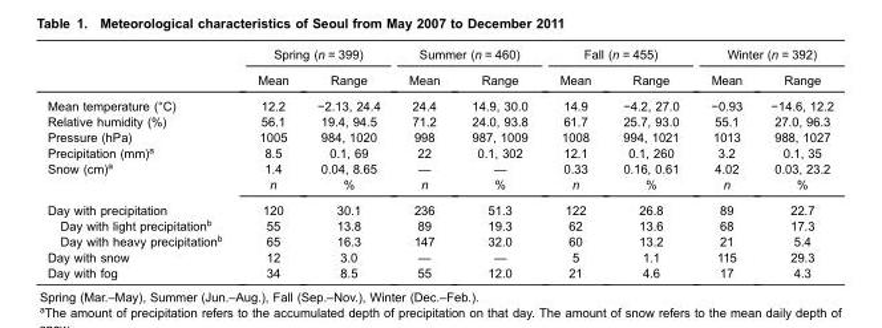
<table><thead><tr><td rowspan="2"></td><td colspan="2">Spring (n = 399)</td><td colspan="2">Summer (n = 460)</td><td colspan="2">Fall (n = 455)</td><td colspan="2">Winter (n = 392)</td></tr><tr><td>Mean</td><td>Range</td><td>Mean</td><td>Range</td><td>Mean</td><td>Range</td><td>Mean</td><td>Range</td></tr></thead><tbody><tr><td>Mean temperature (°C)</td><td>12.2</td><td>−2.13, 24.4</td><td>24.4</td><td>14.9, 30.0</td><td>14.9</td><td>−4.2, 27.0</td><td>−0.93</td><td>−14.6, 12.2</td></tr><tr><td>Relative humidity (%)</td><td>56.1</td><td>19.4, 94.5</td><td>71.2</td><td>24.0, 93.8</td><td>61.7</td><td>25.7, 93.0</td><td>55.1</td><td>27.0, 96.3</td></tr><tr><td>Pressure (hPa)</td><td>1005</td><td>984, 1020</td><td>998</td><td>987, 1009</td><td>1008</td><td>994, 1021</td><td>1013</td><td>988, 1027</td></tr><tr><td>Precipitation (mm)<sup>a</sup></td><td>8.5</td><td>0.1, 69</td><td>22</td><td>0.1, 302</td><td>12.1</td><td>0.1, 260</td><td>3.2</td><td>0.1, 35</td></tr><tr><td rowspan="2">Snow (cm)<sup>a</sup></td><td>1.4</td><td>0.04, 8.65</td><td>—</td><td>—</td><td>0.33</td><td>0.16, 0.61</td><td>4.02</td><td>0.03, 23.2</td></tr><tr><td>n</td><td>%</td><td>n</td><td>%</td><td>n</td><td>%</td><td>n</td><td>%</td></tr><tr><td>Day with precipitation</td><td>120</td><td>30.1</td><td>236</td><td>51.3</td><td>122</td><td>26.8</td><td>89</td><td>22.7</td></tr><tr><td>Day with light precipitation<sup>b</sup></td><td>55</td><td>13.8</td><td>89</td><td>19.3</td><td>62</td><td>13.6</td><td>68</td><td>17.3</td></tr><tr><td>Day with heavy precipitation<sup>b</sup></td><td>65</td><td>16.3</td><td>147</td><td>32.0</td><td>60</td><td>13.2</td><td>21</td><td>5.4</td></tr><tr><td>Day with snow</td><td>12</td><td>3.0</td><td>—</td><td>—</td><td>5</td><td>1.1</td><td>115</td><td>29.3</td></tr><tr><td>Day with fog</td><td>34</td><td>8.5</td><td>55</td><td>12.0</td><td>21</td><td>4.6</td><td>17</td><td>4.3</td></tr></tbody></table>